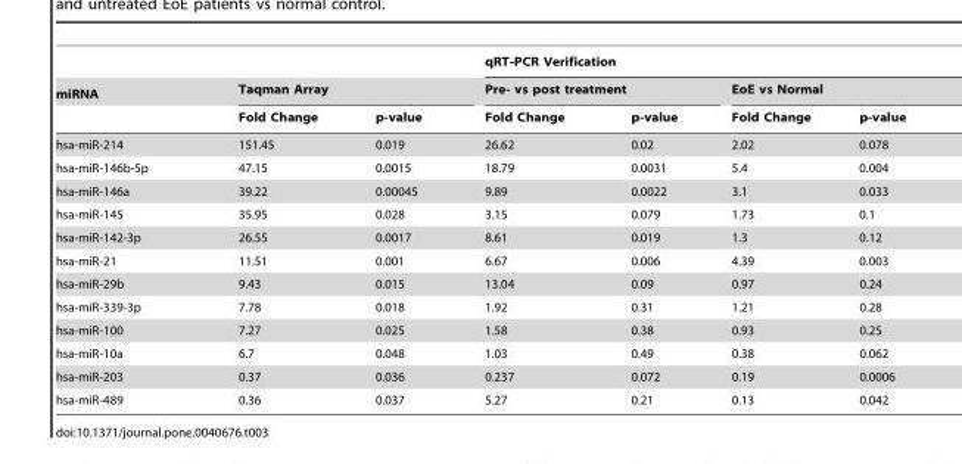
<table><thead><tr><td rowspan="3">miRNA</td><td></td><td></td><td colspan="4">qRT-PCR Verification</td></tr><tr><td colspan="2">Taqman Array</td><td colspan="2">Pre- vs post treatment</td><td colspan="2">EoE vs Normal</td></tr><tr><td>Fold Change</td><td>p-value</td><td>Fold Change</td><td>p-value</td><td>Fold Change</td><td>p-value</td></tr></thead><tbody><tr><td>hsa-miR-214</td><td>151.45</td><td>0.019</td><td>26.62</td><td>0.02</td><td>2.02</td><td>0.078</td></tr><tr><td>hsa-miR-146b-5p</td><td>47.15</td><td>0.0015</td><td>18.79</td><td>0.0031</td><td>5.4</td><td>0.004</td></tr><tr><td>hsa-miR-146a</td><td>39.22</td><td>0.00045</td><td>9.89</td><td>0.0022</td><td>3.1</td><td>0.033</td></tr><tr><td>hsa-miR-145</td><td>35.95</td><td>0.028</td><td>3.15</td><td>0.079</td><td>1.73</td><td>0.1</td></tr><tr><td>hsa-miR-142-3p</td><td>26.55</td><td>0.0017</td><td>8.61</td><td>0.019</td><td>1.3</td><td>0.12</td></tr><tr><td>hsa-miR-21</td><td>11.51</td><td>0.001</td><td>6.67</td><td>0.006</td><td>4.39</td><td>0.003</td></tr><tr><td>hsa-miR-29b</td><td>9.43</td><td>0.015</td><td>13.04</td><td>0.09</td><td>0.97</td><td>0.24</td></tr><tr><td>hsa-miR-339-3p</td><td>7.78</td><td>0.018</td><td>1.92</td><td>0.31</td><td>1.21</td><td>0.28</td></tr><tr><td>hsa-miR-100</td><td>7.27</td><td>0.025</td><td>1.58</td><td>0.38</td><td>0.93</td><td>0.25</td></tr><tr><td>hsa-miR-10a</td><td>6.7</td><td>0.048</td><td>1.03</td><td>0.49</td><td>0.38</td><td>0.062</td></tr><tr><td>hsa-miR-203</td><td>0.37</td><td>0.036</td><td>0.237</td><td>0.072</td><td>0.19</td><td>0.0006</td></tr><tr><td>hsa-miR-489</td><td>0.36</td><td>0.037</td><td>5.27</td><td>0.21</td><td>0.13</td><td>0.042</td></tr></tbody></table>